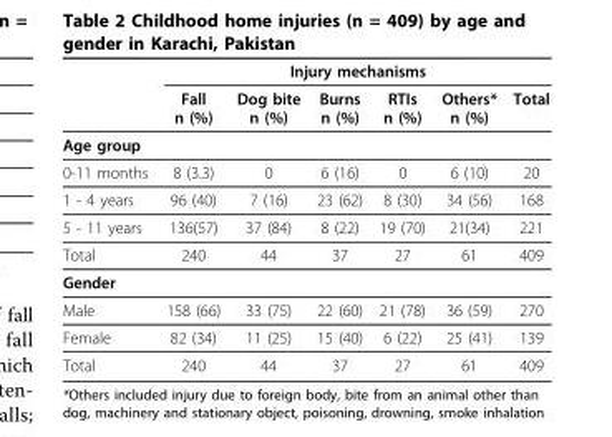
<table><thead><tr><td rowspan="2"></td><td colspan="6">Injury mechanisms</td></tr><tr><td>Fall n (%)</td><td>Dog bite n (%)</td><td>Burns n (%)</td><td>RTIs n (%)</td><td>Others* n (%)</td><td>Total</td></tr></thead><tbody><tr><td colspan="7">Age group</td></tr><tr><td>0-11 months</td><td>8 (3.3)</td><td>0</td><td>6 (16)</td><td>0</td><td>6 (10)</td><td>20</td></tr><tr><td>1 - 4 years</td><td>96 (40)</td><td>7 (16)</td><td>23 (62)</td><td>8 (30)</td><td>34 (56)</td><td>168</td></tr><tr><td>5 - 11 years</td><td>136(57)</td><td>37 (84)</td><td>8 (22)</td><td>19 (70)</td><td>21(34)</td><td>221</td></tr><tr><td>Total</td><td>240</td><td>44</td><td>37</td><td>27</td><td>61</td><td>409</td></tr><tr><td colspan="7">Gender</td></tr><tr><td>Male</td><td>158 (66)</td><td>33 (75)</td><td>22 (60)</td><td>21 (78)</td><td>36 (59)</td><td>270</td></tr><tr><td>Female</td><td>82 (34)</td><td>11 (25)</td><td>15 (40)</td><td>6 (22)</td><td>25 (41)</td><td>139</td></tr><tr><td>Total</td><td>240</td><td>44</td><td>37</td><td>27</td><td>61</td><td>409</td></tr></tbody></table>